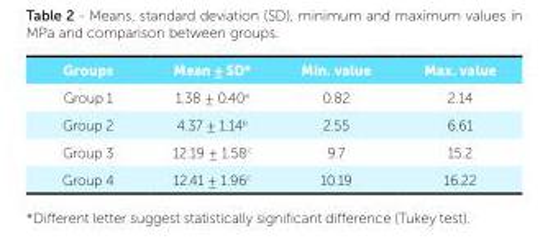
<table><thead><tr><td>Groups</td><td>Mean ± SD*</td><td>Min. value</td><td>Max. value</td></tr></thead><tbody><tr><td>Group 1</td><td>1.38 ± 0.40<sup>a</sup></td><td>0.82</td><td>2.14</td></tr><tr><td>Group 2</td><td>4.37 ± 1.14<sup>b</sup></td><td>2.55</td><td>6.61</td></tr><tr><td>Group 3</td><td>12.19 ± 1.58<sup>c</sup></td><td>9.7</td><td>15.2</td></tr><tr><td>Group 4</td><td>12.41 ± 1.96<sup>c</sup></td><td>10.19</td><td>16.22</td></tr></tbody></table>